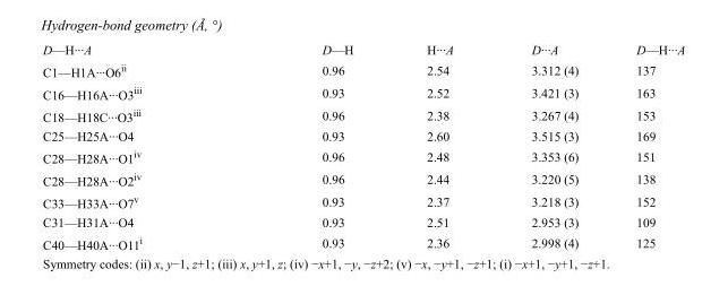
<table><tbody><tr><td>D—H···A</td><td>D—H</td><td>H···A</td><td>D···A</td><td>D—H···A</td></tr><tr><td>C1—H1A···O6<sup>ii</sup></td><td>0.96</td><td>2.54</td><td>3.312 (4)</td><td>137</td></tr><tr><td>C16—H16A···O3<sup>iii</sup></td><td>0.93</td><td>2.52</td><td>3.421 (3)</td><td>163</td></tr><tr><td>C18—H18C···O3<sup>iii</sup></td><td>0.96</td><td>2.38</td><td>3.267 (4)</td><td>153</td></tr><tr><td>C25—H25A···O4</td><td>0.93</td><td>2.60</td><td>3.515 (3)</td><td>169</td></tr><tr><td>C28—H28A···O1<sup>iv</sup></td><td>0.96</td><td>2.48</td><td>3.353 (6)</td><td>151</td></tr><tr><td>C28—H28A···O2<sup>iv</sup></td><td>0.96</td><td>2.44</td><td>3.220 (5)</td><td>138</td></tr><tr><td>C33—H33A···O7<sup>v</sup></td><td>0.93</td><td>2.37</td><td>3.218 (3)</td><td>152</td></tr><tr><td>C31—H31A···O4</td><td>0.93</td><td>2.51</td><td>2.953 (3)</td><td>109</td></tr><tr><td>C40—H40A···O11<sup>i</sup></td><td>0.93</td><td>2.36</td><td>2.998 (4)</td><td>125</td></tr></tbody></table>